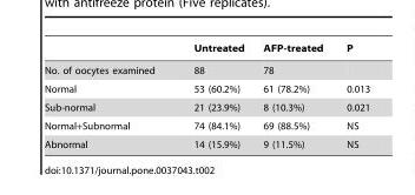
<table><thead><tr><td></td><td>Untreated</td><td>AFP-treated</td><td>P</td></tr></thead><tbody><tr><td>No. of oocytes examined</td><td>88</td><td>78</td><td></td></tr><tr><td>Normal</td><td>53 (60.2%)</td><td>61 (78.2%)</td><td>0.013</td></tr><tr><td>Sub-normal</td><td>21 (23.9%)</td><td>8 (10.3%)</td><td>0.021</td></tr><tr><td>Normal+Subnormal</td><td>74 (84.1%)</td><td>69 (88.5%)</td><td>NS</td></tr><tr><td>Abnormal</td><td>14 (15.9%)</td><td>9 (11.5%)</td><td>NS</td></tr></tbody></table>